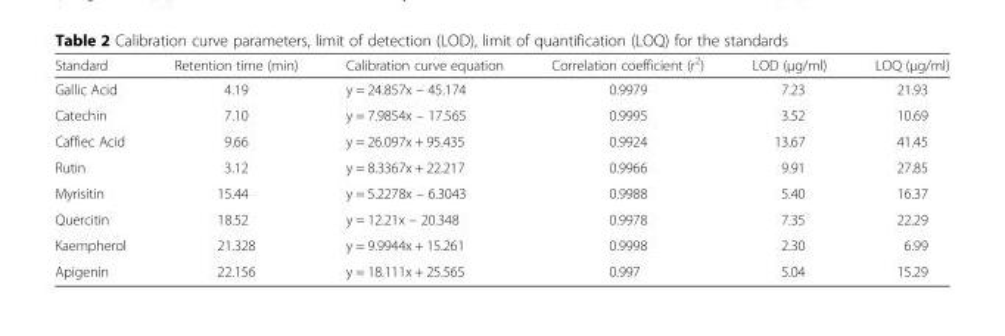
<table><thead><tr><td>Standard</td><td>Retention time (min)</td><td>Calibration curve equation</td><td>Correlation coefficient (r<sup>2</sup>)</td><td>LOD (μg/ml)</td><td>LOQ (μg/ml)</td></tr></thead><tbody><tr><td>Gallic Acid</td><td>4.19</td><td>y = 24.857x – 45.174</td><td>0.9979</td><td>7.23</td><td>21.93</td></tr><tr><td>Catechin</td><td>7.10</td><td>y = 7.9854x – 17.565</td><td>0.9995</td><td>3.52</td><td>10.69</td></tr><tr><td>Caffiec Acid</td><td>9.66</td><td>y = 26.097x + 95.435</td><td>0.9924</td><td>13.67</td><td>41.45</td></tr><tr><td>Rutin</td><td>3.12</td><td>y = 8.3367x + 22.217</td><td>0.9966</td><td>9.91</td><td>27.85</td></tr><tr><td>Myrisitin</td><td>15.44</td><td>y = 5.2278x – 6.3043</td><td>0.9988</td><td>5.40</td><td>16.37</td></tr><tr><td>Quercitin</td><td>18.52</td><td>y = 12.21x – 20.348</td><td>0.9978</td><td>7.35</td><td>22.29</td></tr><tr><td>Kaempherol</td><td>21.328</td><td>y = 9.9944x + 15.261</td><td>0.9998</td><td>2.30</td><td>6.99</td></tr><tr><td>Apigenin</td><td>22.156</td><td>y = 18.111x + 25.565</td><td>0.997</td><td>5.04</td><td>15.29</td></tr></tbody></table>